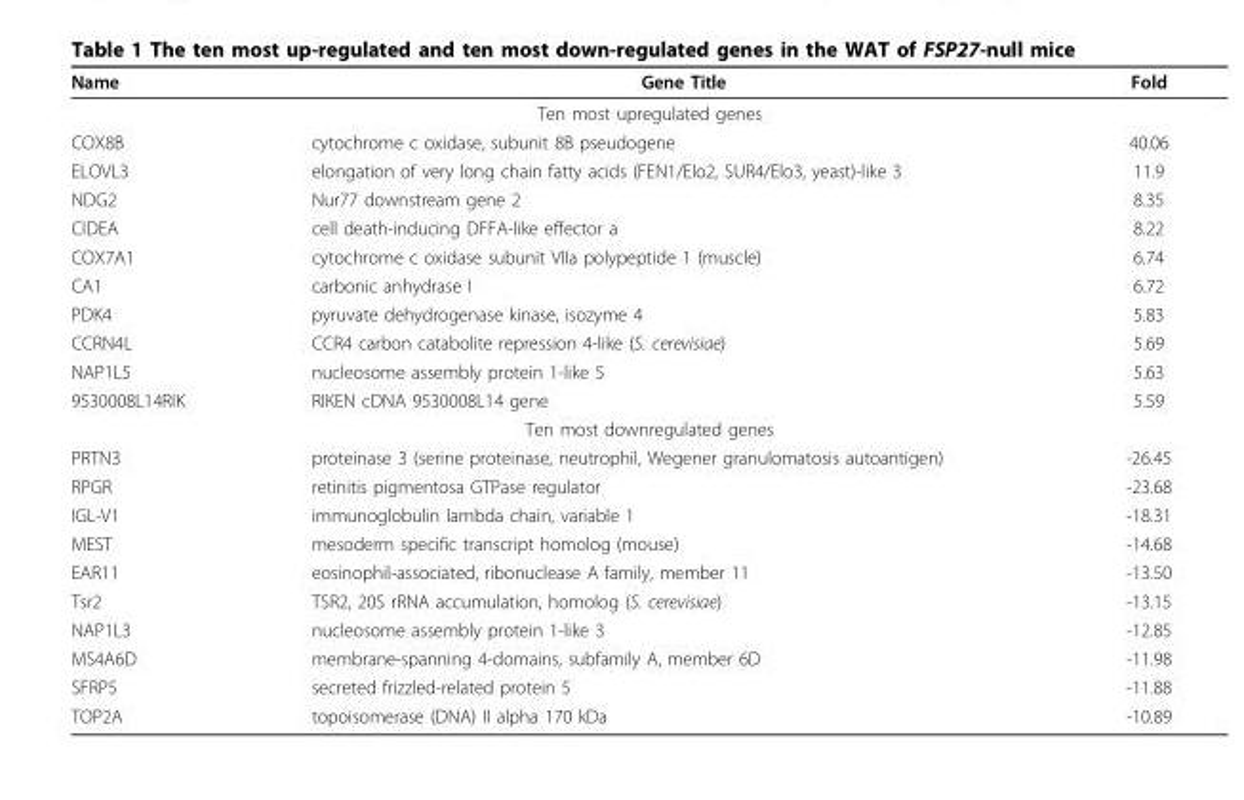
<table><thead><tr><td>Name</td><td>Gene Title</td><td>Fold</td></tr></thead><tbody><tr><td colspan="3">Ten most upregulated genes</td></tr><tr><td>COX8B</td><td>cytochrome c oxidase, subunit 8B pseudogene</td><td>40.06</td></tr><tr><td>ELOVL3</td><td>elongation of very long chain fatty acids (FEN1/Elo2, SUR4/Elo3, yeast)-like 3</td><td>11.9</td></tr><tr><td>NDG2</td><td>Nur77 downstream gene 2</td><td>8.35</td></tr><tr><td>CIDEA</td><td>cell death-inducing DFFA-like effector a</td><td>8.22</td></tr><tr><td>COX7A1</td><td>cytochrome c oxidase subunit VIIa polypeptide 1 (muscle)</td><td>6.74</td></tr><tr><td>CA1</td><td>carbonic anhydrase I</td><td>6.72</td></tr><tr><td>PDK4</td><td>pyruvate dehydrogenase kinase, isozyme 4</td><td>5.83</td></tr><tr><td>CCRN4L</td><td>CCR4 carbon catabolite repression 4-like (S. cerevisiae)</td><td>5.69</td></tr><tr><td>NAP1L5</td><td>nucleosome assembly protein 1-like 5</td><td>5.63</td></tr><tr><td>9530008L14RIK</td><td>RIKEN cDNA 9530008L14 gene</td><td>5.59</td></tr><tr><td colspan="3">Ten most downregulated genes</td></tr><tr><td>PRTN3</td><td>proteinase 3 (serine proteinase, neutrophil, Wegener granulomatosis autoantigen)</td><td>-26.45</td></tr><tr><td>RPGR</td><td>retinitis pigmentosa GTPase regulator</td><td>-23.68</td></tr><tr><td>IGL-V1</td><td>immunoglobulin lambda chain, variable 1</td><td>-18.31</td></tr><tr><td>MEST</td><td>mesoderm specific transcript homolog (mouse)</td><td>-14.68</td></tr><tr><td>EAR11</td><td>eosinophil-associated, ribonuclease A family, member 11</td><td>-13.50</td></tr><tr><td>Tsr2</td><td>TSR2, 20S rRNA accumulation, homolog (S. cerevisiae)</td><td>-13.15</td></tr><tr><td>NAP1L3</td><td>nucleosome assembly protein 1-like 3</td><td>-12.85</td></tr><tr><td>MS4A6D</td><td>membrane-spanning 4-domains, subfamily A, member 6D</td><td>-11.98</td></tr><tr><td>SFRP5</td><td>secreted frizzled-related protein 5</td><td>-11.88</td></tr><tr><td>TOP2A</td><td>topoisomerase (DNA) II alpha 170 kDa</td><td>-10.89</td></tr></tbody></table>